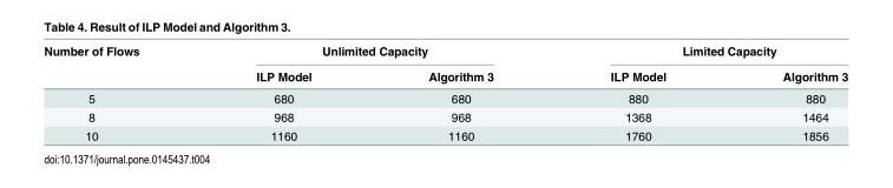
<table><thead><tr><td rowspan="2">Number of Flows</td><td colspan="2">Unlimited Capacity</td><td colspan="2">Limited Capacity</td></tr><tr><td>ILP Model</td><td>Algorithm 3</td><td>ILP Model</td><td>Algorithm 3</td></tr></thead><tbody><tr><td>5</td><td>680</td><td>680</td><td>880</td><td>880</td></tr><tr><td>8</td><td>968</td><td>968</td><td>1368</td><td>1464</td></tr><tr><td>10</td><td>1160</td><td>1160</td><td>1760</td><td>1856</td></tr></tbody></table>